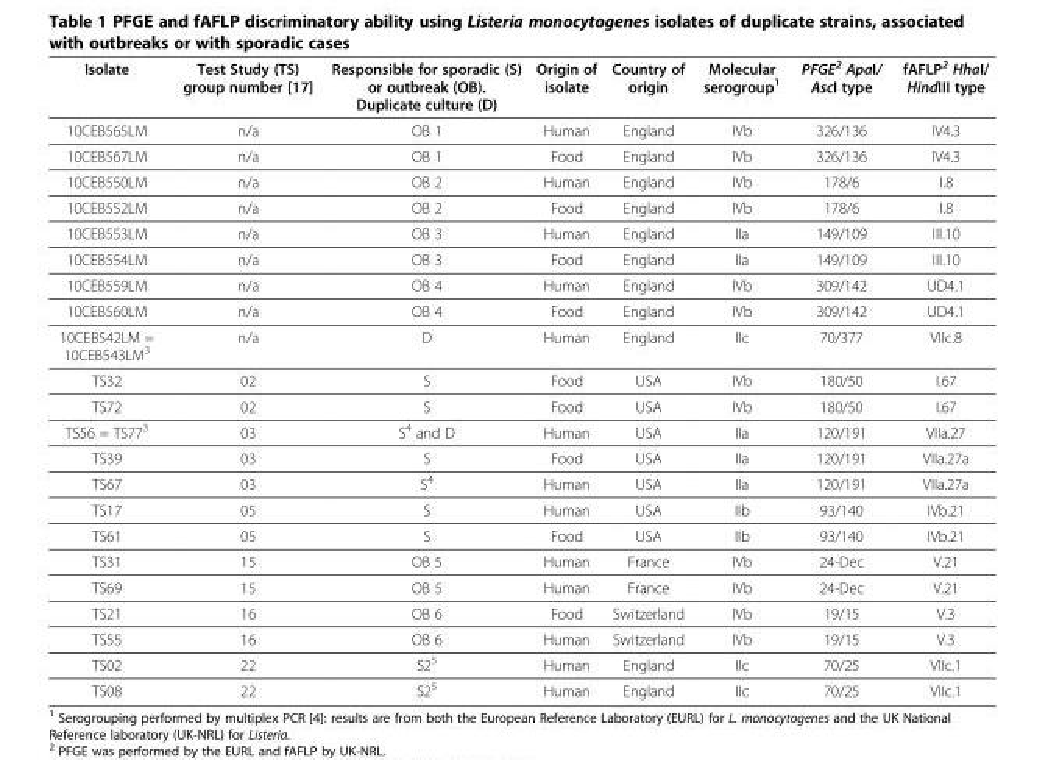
<table><thead><tr><td>Isolate</td><td>Test Study (TS) group number [17]</td><td>Responsible for sporadic (S) or outbreak (OB). Duplicate culture (D)</td><td>Origin of isolate</td><td>Country of origin</td><td>Molecular serogroup<sup>1</sup></td><td>PFGE<sup>2</sup> ApaI/ AscI type</td><td>fAFLP<sup>2</sup> HhaI/ HindIII type</td></tr></thead><tbody><tr><td>10CEB565LM</td><td>n/a</td><td>OB 1</td><td>Human</td><td>England</td><td>IVb</td><td>326/136</td><td>IV4.3</td></tr><tr><td>10CEB567LM</td><td>n/a</td><td>OB 1</td><td>Food</td><td>England</td><td>IVb</td><td>326/136</td><td>IV4.3</td></tr><tr><td>10CEB550LM</td><td>n/a</td><td>OB 2</td><td>Human</td><td>England</td><td>IVb</td><td>178/6</td><td>I.8</td></tr><tr><td>10CEB552LM</td><td>n/a</td><td>OB 2</td><td>Food</td><td>England</td><td>IVb</td><td>178/6</td><td>I.8</td></tr><tr><td>10CEB553LM</td><td>n/a</td><td>OB 3</td><td>Human</td><td>England</td><td>IIa</td><td>149/109</td><td>III.10</td></tr><tr><td>10CEB554LM</td><td>n/a</td><td>OB 3</td><td>Food</td><td>England</td><td>IIa</td><td>149/109</td><td>III.10</td></tr><tr><td>10CEB559LM</td><td>n/a</td><td>OB 4</td><td>Human</td><td>England</td><td>IVb</td><td>309/142</td><td>UD4.1</td></tr><tr><td>10CEB560LM</td><td>n/a</td><td>OB 4</td><td>Food</td><td>England</td><td>IVb</td><td>309/142</td><td>UD4.1</td></tr><tr><td>10CEB542LM = 10CEB543LM<sup>3</sup></td><td>n/a</td><td>D</td><td>Human</td><td>England</td><td>IIc</td><td>70/377</td><td>VIIc.8</td></tr><tr><td>TS32</td><td>02</td><td>S</td><td>Food</td><td>USA</td><td>IVb</td><td>180/50</td><td>I.67</td></tr><tr><td>TS72</td><td>02</td><td>S</td><td>Food</td><td>USA</td><td>IVb</td><td>180/50</td><td>I.67</td></tr><tr><td>TS56 = TS77<sup>3</sup></td><td>03</td><td>S<sup>4</sup> and D</td><td>Human</td><td>USA</td><td>IIa</td><td>120/191</td><td>VIIa.27</td></tr><tr><td>TS39</td><td>03</td><td>S</td><td>Food</td><td>USA</td><td>IIa</td><td>120/191</td><td>VIIa.27a</td></tr><tr><td>TS67</td><td>03</td><td>S<sup>4</sup></td><td>Human</td><td>USA</td><td>IIa</td><td>120/191</td><td>VIIa.27a</td></tr><tr><td>TS17</td><td>05</td><td>S</td><td>Human</td><td>USA</td><td>IIb</td><td>93/140</td><td>IVb.21</td></tr><tr><td>TS61</td><td>05</td><td>S</td><td>Food</td><td>USA</td><td>IIb</td><td>93/140</td><td>IVb.21</td></tr><tr><td>TS31</td><td>15</td><td>OB 5</td><td>Human</td><td>France</td><td>IVb</td><td>24-Dec</td><td>V.21</td></tr><tr><td>TS69</td><td>15</td><td>OB 5</td><td>Human</td><td>France</td><td>IVb</td><td>24-Dec</td><td>V.21</td></tr><tr><td>TS21</td><td>16</td><td>OB 6</td><td>Food</td><td>Switzerland</td><td>IVb</td><td>19/15</td><td>V.3</td></tr><tr><td>TS55</td><td>16</td><td>OB 6</td><td>Human</td><td>Switzerland</td><td>IVb</td><td>19/15</td><td>V.3</td></tr><tr><td>TS02</td><td>22</td><td>S2<sup>5</sup></td><td>Human</td><td>England</td><td>IIc</td><td>70/25</td><td>VIIc.1</td></tr><tr><td>TS08</td><td>22</td><td>S2<sup>5</sup></td><td>Human</td><td>England</td><td>IIc</td><td>70/25</td><td>VIIc.1</td></tr></tbody></table>